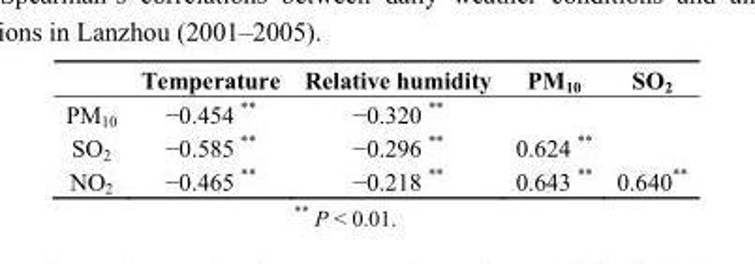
<table><thead><tr><td></td><td>Temperature</td><td>Relative humidity</td><td>PM<sub>10</sub></td><td>SO<sub>2</sub></td></tr></thead><tbody><tr><td>PM<sub>10</sub></td><td>−0.454 **</td><td>−0.320 **</td><td></td><td></td></tr><tr><td>SO<sub>2</sub></td><td>−0.585 **</td><td>−0.296 **</td><td>0.624 **</td><td></td></tr><tr><td>NO<sub>2</sub></td><td>−0.465 **</td><td>−0.218 **</td><td>0.643 **</td><td>0.640**</td></tr></tbody></table>